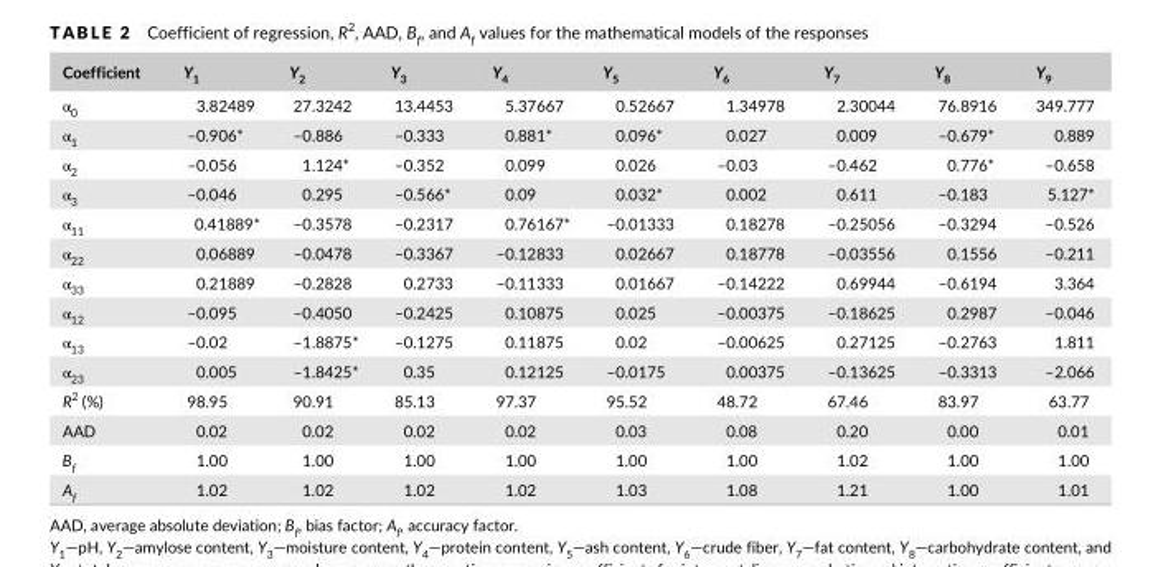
<table><thead><tr><td>Coefficient</td><td>Y<sub>1</sub></td><td>Y<sub>2</sub></td><td>Y<sub>3</sub></td><td>Y<sub>4</sub></td><td>Y<sub>5</sub></td><td>Y<sub>6</sub></td><td>Y<sub>7</sub></td><td>Y<sub>8</sub></td><td>Y<sub>9</sub></td></tr></thead><tbody><tr><td>α<sub>0</sub></td><td>3.82489</td><td>27.3242</td><td>13.4453</td><td>5.37667</td><td>0.52667</td><td>1.34978</td><td>2.30044</td><td>76.8916</td><td>349.777</td></tr><tr><td>α<sub>1</sub></td><td>–0.906*</td><td>–0.886</td><td>–0.333</td><td>0.881*</td><td>0.096*</td><td>0.027</td><td>0.009</td><td>–0.679*</td><td>0.889</td></tr><tr><td>α<sub>2</sub></td><td>–0.056</td><td>1.124*</td><td>–0.352</td><td>0.099</td><td>0.026</td><td>–0.03</td><td>–0.462</td><td>0.776*</td><td>–0.658</td></tr><tr><td>α<sub>3</sub></td><td>–0.046</td><td>0.295</td><td>–0.566*</td><td>0.09</td><td>0.032*</td><td>0.002</td><td>0.611</td><td>–0.183</td><td>5.127*</td></tr><tr><td>α<sub>11</sub></td><td>0.41889*</td><td>–0.3578</td><td>–0.2317</td><td>0.76167*</td><td>–0.01333</td><td>0.18278</td><td>–0.25056</td><td>–0.3294</td><td>–0.526</td></tr><tr><td>α<sub>22</sub></td><td>0.06889</td><td>–0.0478</td><td>–0.3367</td><td>–0.12833</td><td>0.02667</td><td>0.18778</td><td>–0.03556</td><td>0.1556</td><td>–0.211</td></tr><tr><td>α<sub>33</sub></td><td>0.21889</td><td>–0.2828</td><td>0.2733</td><td>–0.11333</td><td>0.01667</td><td>–0.14222</td><td>0.69944</td><td>–0.6194</td><td>3.364</td></tr><tr><td>α<sub>12</sub></td><td>–0.095</td><td>–0.4050</td><td>–0.2425</td><td>0.10875</td><td>0.025</td><td>–0.00375</td><td>–0.18625</td><td>0.2987</td><td>–0.046</td></tr><tr><td>α<sub>13</sub></td><td>–0.02</td><td>–1.8875*</td><td>–0.1275</td><td>0.11875</td><td>0.02</td><td>–0.00625</td><td>0.27125</td><td>–0.2763</td><td>1.811</td></tr><tr><td>α<sub>23</sub></td><td>0.005</td><td>–1.8425*</td><td>0.35</td><td>0.12125</td><td>–0.0175</td><td>0.00375</td><td>–0.13625</td><td>–0.3313</td><td>–2.066</td></tr><tr><td>R<sup>2</sup> (%)</td><td>98.95</td><td>90.91</td><td>85.13</td><td>97.37</td><td>95.52</td><td>48.72</td><td>67.46</td><td>83.97</td><td>63.77</td></tr><tr><td>AAD</td><td>0.02</td><td>0.02</td><td>0.02</td><td>0.02</td><td>0.03</td><td>0.08</td><td>0.20</td><td>0.00</td><td>0.01</td></tr><tr><td>B<sub>f</sub></td><td>1.00</td><td>1.00</td><td>1.00</td><td>1.00</td><td>1.00</td><td>1.00</td><td>1.02</td><td>1.00</td><td>1.00</td></tr><tr><td>A<sub>f</sub></td><td>1.02</td><td>1.02</td><td>1.02</td><td>1.02</td><td>1.03</td><td>1.08</td><td>1.21</td><td>1.00</td><td>1.01</td></tr></tbody></table>